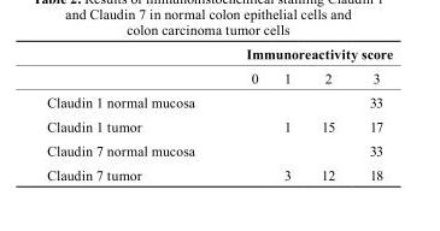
<table><thead><tr><td rowspan="2"></td><td colspan="4">Immunoreactivity score</td></tr><tr><td>0</td><td>1</td><td>2</td><td>3</td></tr></thead><tbody><tr><td>Claudin 1 normal mucosa</td><td></td><td></td><td></td><td>33</td></tr><tr><td>Claudin 1 tumor</td><td></td><td>1</td><td>15</td><td>17</td></tr><tr><td>Claudin 7 normal mucosa</td><td></td><td></td><td></td><td>33</td></tr><tr><td>Claudin 7 tumor</td><td></td><td>3</td><td>12</td><td>18</td></tr></tbody></table>